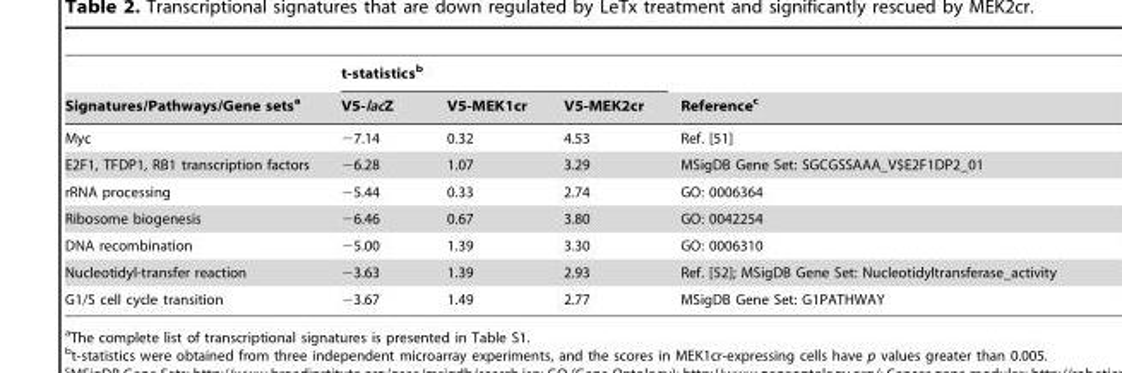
<table><thead><tr><td rowspan="2">Signatures/Pathways/Gene sets<sup>a</sup></td><td colspan="3">t-statistics<sup>b</sup></td><td rowspan="2">Reference<sup>c</sup></td></tr><tr><td>V5-lacZ</td><td>V5-MEK1cr</td><td>V5-MEK2cr</td></tr></thead><tbody><tr><td>Myc</td><td>−7.14</td><td>0.32</td><td>4.53</td><td>Ref. [51]</td></tr><tr><td>E2F1, TFDP1, RB1 transcription factors</td><td>−6.28</td><td>1.07</td><td>3.29</td><td>MSigDB Gene Set: SGCGSSAAA_V$E2F1DP2_01</td></tr><tr><td>rRNA processing</td><td>−5.44</td><td>0.33</td><td>2.74</td><td>GO: 0006364</td></tr><tr><td>Ribosome biogenesis</td><td>−6.46</td><td>0.67</td><td>3.80</td><td>GO: 0042254</td></tr><tr><td>DNA recombination</td><td>−5.00</td><td>1.39</td><td>3.30</td><td>GO: 0006310</td></tr><tr><td>Nucleotidyl-transfer reaction</td><td>−3.63</td><td>1.39</td><td>2.93</td><td>Ref. [52]; MSigDB Gene Set: Nucleotidyltransferase_activity</td></tr><tr><td>G1/S cell cycle transition</td><td>−3.67</td><td>1.49</td><td>2.77</td><td>MSigDB Gene Set: G1PATHWAY</td></tr></tbody></table>